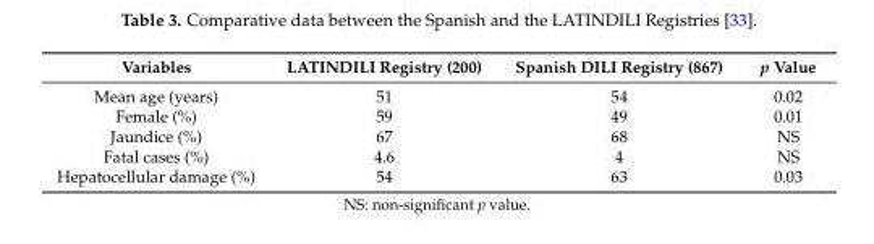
<table><thead><tr><td>Variables</td><td>LATINDILI Registry (200)</td><td>Spanish DILI Registry (867)</td><td>p Value</td></tr></thead><tbody><tr><td>Mean age (years)</td><td>51</td><td>54</td><td>0.02</td></tr><tr><td>Female (%)</td><td>59</td><td>49</td><td>0.01</td></tr><tr><td>Jaundice (%)</td><td>67</td><td>68</td><td>NS</td></tr><tr><td>Fatal cases (%)</td><td>4.6</td><td>4</td><td>NS</td></tr><tr><td>Hepatocellular damage (%)</td><td>54</td><td>63</td><td>0.03</td></tr></tbody></table>